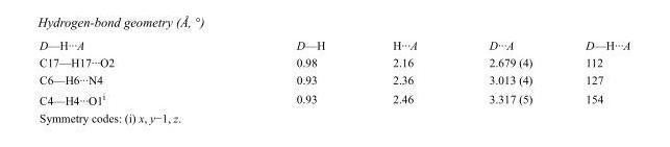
<table><tbody><tr><td>D—H···A</td><td>D—H</td><td>H···A</td><td>D···A</td><td>D—H···A</td></tr><tr><td>C17—H17···O2</td><td>0.98</td><td>2.16</td><td>2.679 (4)</td><td>112</td></tr><tr><td>C6—H6···N4</td><td>0.93</td><td>2.36</td><td>3.013 (4)</td><td>127</td></tr><tr><td>C4—H4···O1<sup>i</sup></td><td>0.93</td><td>2.46</td><td>3.317 (5)</td><td>154</td></tr></tbody></table>